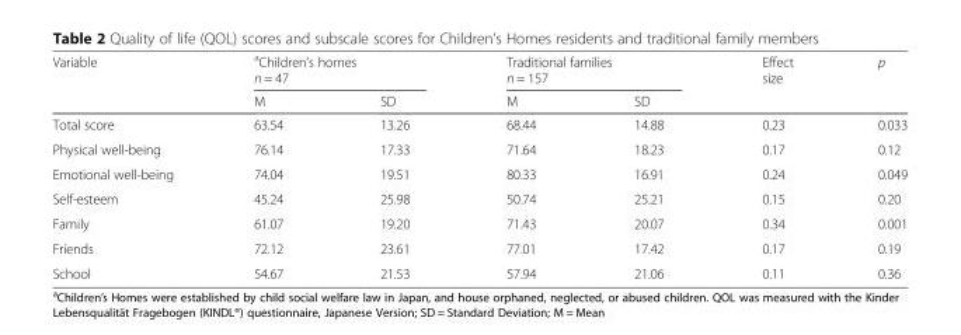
<table><thead><tr><td rowspan="2">Variable</td><td colspan="2"><sup>a</sup>Children’s homes n = 47</td><td colspan="2">Traditional families n = 157</td><td rowspan="2">Effect size</td><td rowspan="2">p</td></tr><tr><td>M</td><td>SD</td><td>M</td><td>SD</td></tr></thead><tbody><tr><td>Total score</td><td>63.54</td><td>13.26</td><td>68.44</td><td>14.88</td><td>0.23</td><td>0.033</td></tr><tr><td>Physical well-being</td><td>76.14</td><td>17.33</td><td>71.64</td><td>18.23</td><td>0.17</td><td>0.12</td></tr><tr><td>Emotional well-being</td><td>74.04</td><td>19.51</td><td>80.33</td><td>16.91</td><td>0.24</td><td>0.049</td></tr><tr><td>Self-esteem</td><td>45.24</td><td>25.98</td><td>50.74</td><td>25.21</td><td>0.15</td><td>0.20</td></tr><tr><td>Family</td><td>61.07</td><td>19.20</td><td>71.43</td><td>20.07</td><td>0.34</td><td>0.001</td></tr><tr><td>Friends</td><td>72.12</td><td>23.61</td><td>77.01</td><td>17.42</td><td>0.17</td><td>0.19</td></tr><tr><td>School</td><td>54.67</td><td>21.53</td><td>57.94</td><td>21.06</td><td>0.11</td><td>0.36</td></tr></tbody></table>